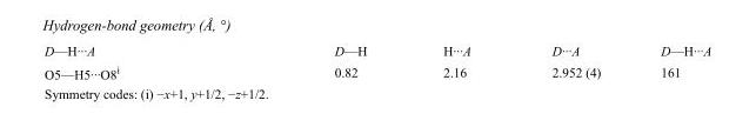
<table><tbody><tr><td>D—H···A</td><td>D—H</td><td>H···A</td><td>D···A</td><td>D—H···A</td></tr><tr><td>O5—H5···O8<sup>i</sup></td><td>0.82</td><td>2.16</td><td>2.952 (4)</td><td>161</td></tr></tbody></table>